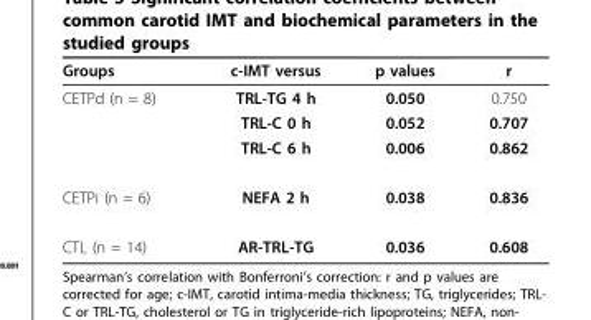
<table><thead><tr><td>Groups</td><td>c-IMT versus</td><td>p values</td><td>r</td></tr></thead><tbody><tr><td rowspan="3">CETPd (n = 8)</td><td>TRL-TG 4 h</td><td>0.050</td><td>0.750</td></tr><tr><td>TRL-C 0 h</td><td>0.052</td><td>0.707</td></tr><tr><td>TRL-C 6 h</td><td>0.006</td><td>0.862</td></tr><tr><td>CETPi (n = 6)</td><td>NEFA 2 h</td><td>0.038</td><td>0.836</td></tr><tr><td>CTL (n = 14)</td><td>AR-TRL-TG</td><td>0.036</td><td>0.608</td></tr></tbody></table>